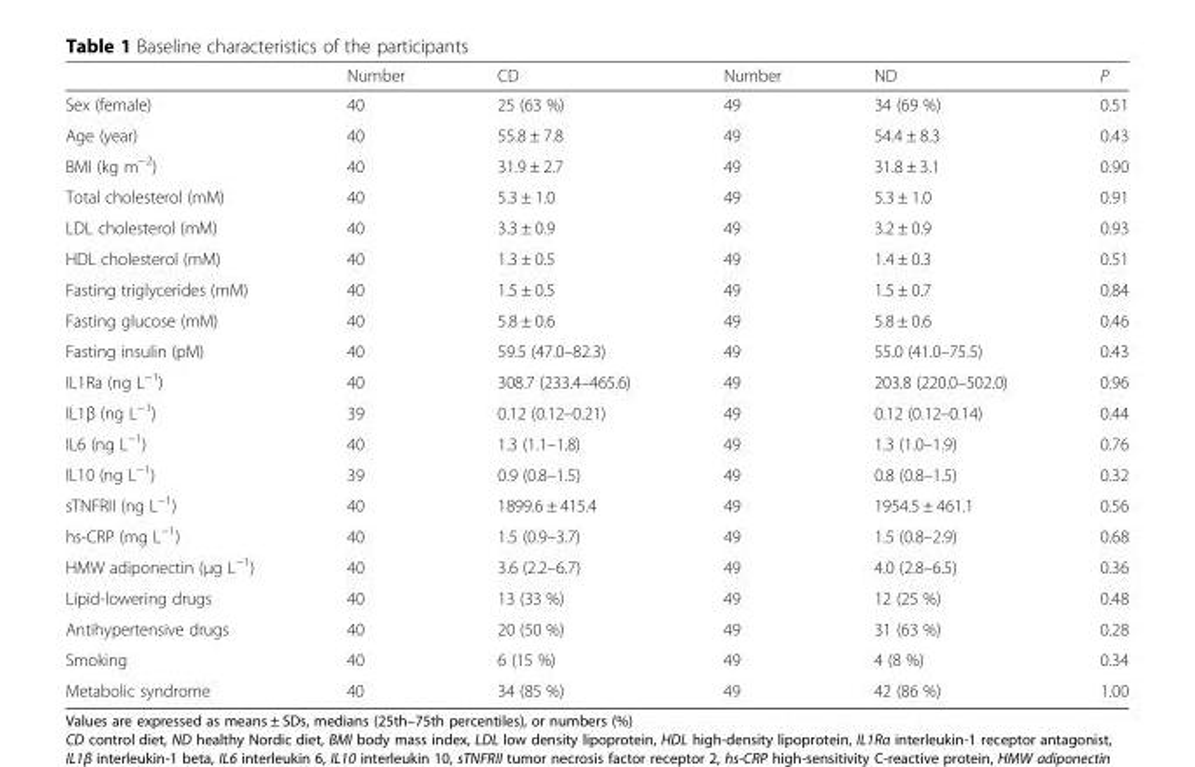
<table><thead><tr><td></td><td>Number</td><td>CD</td><td>Number</td><td>ND</td><td>P</td></tr></thead><tbody><tr><td>Sex (female)</td><td>40</td><td>25 (63 %)</td><td>49</td><td>34 (69 %)</td><td>0.51</td></tr><tr><td>Age (year)</td><td>40</td><td>55.8 ± 7.8</td><td>49</td><td>54.4 ± 8.3</td><td>0.43</td></tr><tr><td>BMI (kg m<sup>−2</sup>)</td><td>40</td><td>31.9 ± 2.7</td><td>49</td><td>31.8 ± 3.1</td><td>0.90</td></tr><tr><td>Total cholesterol (mM)</td><td>40</td><td>5.3 ± 1.0</td><td>49</td><td>5.3 ± 1.0</td><td>0.91</td></tr><tr><td>LDL cholesterol (mM)</td><td>40</td><td>3.3 ± 0.9</td><td>49</td><td>3.2 ± 0.9</td><td>0.93</td></tr><tr><td>HDL cholesterol (mM)</td><td>40</td><td>1.3 ± 0.5</td><td>49</td><td>1.4 ± 0.3</td><td>0.51</td></tr><tr><td>Fasting triglycerides (mM)</td><td>40</td><td>1.5 ± 0.5</td><td>49</td><td>1.5 ± 0.7</td><td>0.84</td></tr><tr><td>Fasting glucose (mM)</td><td>40</td><td>5.8 ± 0.6</td><td>49</td><td>5.8 ± 0.6</td><td>0.46</td></tr><tr><td>Fasting insulin (pM)</td><td>40</td><td>59.5 (47.0–82.3)</td><td>49</td><td>55.0 (41.0–75.5)</td><td>0.43</td></tr><tr><td>IL1Ra (ng L<sup>−1</sup>)</td><td>40</td><td>308.7 (233.4–465.6)</td><td>49</td><td>203.8 (220.0–502.0)</td><td>0.96</td></tr><tr><td>IL1β (ng L<sup>−1</sup>)</td><td>39</td><td>0.12 (0.12–0.21)</td><td>49</td><td>0.12 (0.12–0.14)</td><td>0.44</td></tr><tr><td>IL6 (ng L<sup>−1</sup>)</td><td>40</td><td>1.3 (1.1–1.8)</td><td>49</td><td>1.3 (1.0–1.9)</td><td>0.76</td></tr><tr><td>IL10 (ng L<sup>−1</sup>)</td><td>39</td><td>0.9 (0.8–1.5)</td><td>49</td><td>0.8 (0.8–1.5)</td><td>0.32</td></tr><tr><td>sTNFRII (ng L<sup>−1</sup>)</td><td>40</td><td>1899.6 ± 415.4</td><td>49</td><td>1954.5 ± 461.1</td><td>0.56</td></tr><tr><td>hs-CRP (mg L<sup>−1</sup>)</td><td>40</td><td>1.5 (0.9–3.7)</td><td>49</td><td>1.5 (0.8–2.9)</td><td>0.68</td></tr><tr><td>HMW adiponectin (μg L<sup>−1</sup>)</td><td>40</td><td>3.6 (2.2–6.7)</td><td>49</td><td>4.0 (2.8–6.5)</td><td>0.36</td></tr><tr><td>Lipid-lowering drugs</td><td>40</td><td>13 (33 %)</td><td>49</td><td>12 (25 %)</td><td>0.48</td></tr><tr><td>Antihypertensive drugs</td><td>40</td><td>20 (50 %)</td><td>49</td><td>31 (63 %)</td><td>0.28</td></tr><tr><td>Smoking</td><td>40</td><td>6 (15 %)</td><td>49</td><td>4 (8 %)</td><td>0.34</td></tr><tr><td>Metabolic syndrome</td><td>40</td><td>34 (85 %)</td><td>49</td><td>42 (86 %)</td><td>1.00</td></tr></tbody></table>